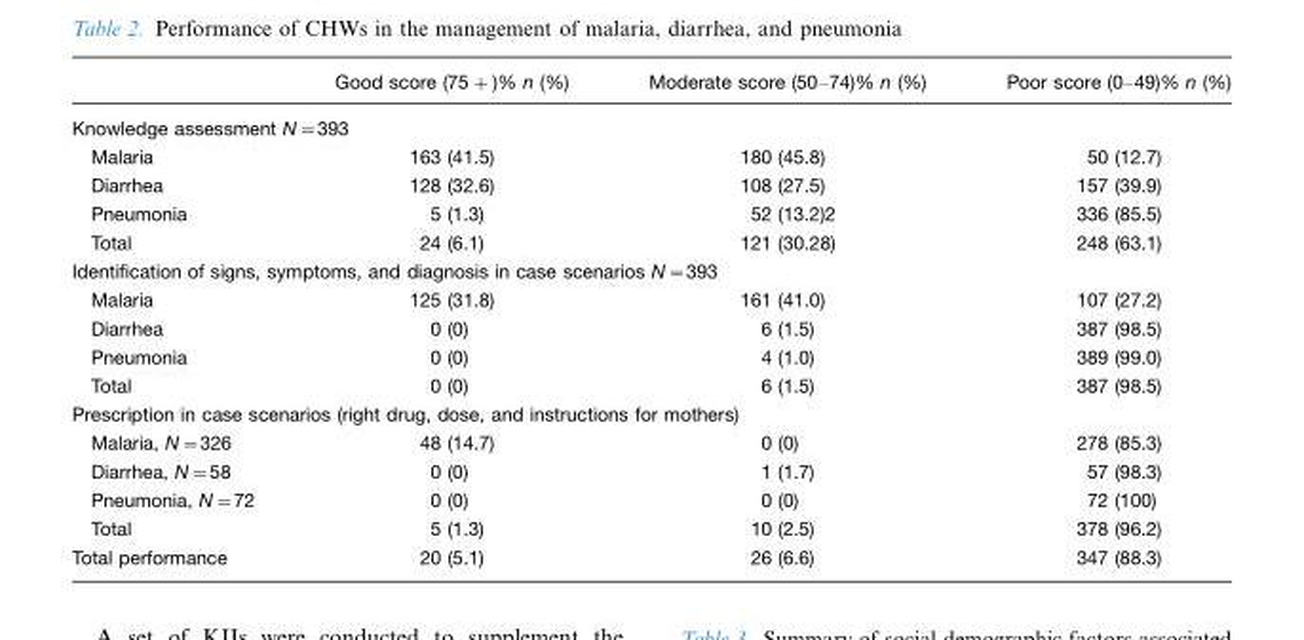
<table><thead><tr><td></td><td>Good score (75+)% n (%)</td><td>Moderate score (50–74)% n (%)</td><td>Poor score (0–49)% n (%)</td></tr></thead><tbody><tr><td colspan="4">Knowledge assessment N=393</td></tr><tr><td>Malaria</td><td>163 (41.5)</td><td>180 (45.8)</td><td>50 (12.7)</td></tr><tr><td>Diarrhea</td><td>128 (32.6)</td><td>108 (27.5)</td><td>157 (39.9)</td></tr><tr><td>Pneumonia</td><td>5 (1.3)</td><td>52 (13.2)2</td><td>336 (85.5)</td></tr><tr><td>Total</td><td>24 (6.1)</td><td>121 (30.28)</td><td>248 (63.1)</td></tr><tr><td colspan="4">Identification of signs, symptoms, and diagnosis in case scenarios N=393</td></tr><tr><td>Malaria</td><td>125 (31.8)</td><td>161 (41.0)</td><td>107 (27.2)</td></tr><tr><td>Diarrhea</td><td>0 (0)</td><td>6 (1.5)</td><td>387 (98.5)</td></tr><tr><td>Pneumonia</td><td>0 (0)</td><td>4 (1.0)</td><td>389 (99.0)</td></tr><tr><td>Total</td><td>0 (0)</td><td>6 (1.5)</td><td>387 (98.5)</td></tr><tr><td colspan="4">Prescription in case scenarios (right drug, dose, and instructions for mothers)</td></tr><tr><td>Malaria, N=326</td><td>48 (14.7)</td><td>0 (0)</td><td>278 (85.3)</td></tr><tr><td>Diarrhea, N=58</td><td>0 (0)</td><td>1 (1.7)</td><td>57 (98.3)</td></tr><tr><td>Pneumonia, N=72</td><td>0 (0)</td><td>0 (0)</td><td>72 (100)</td></tr><tr><td>Total</td><td>5 (1.3)</td><td>10 (2.5)</td><td>378 (96.2)</td></tr><tr><td>Total performance</td><td>20 (5.1)</td><td>26 (6.6)</td><td>347 (88.3)</td></tr></tbody></table>